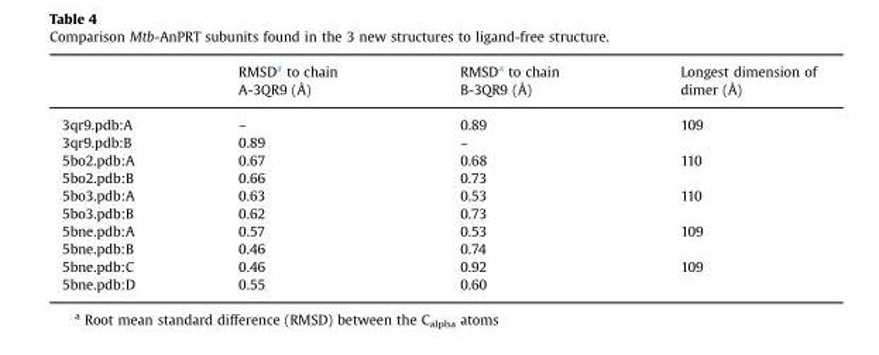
<table><thead><tr><td></td><td>RMSD<sup>a</sup> to chain A-3QR9 (Å)</td><td>RMSD<sup>a</sup> to chain B-3QR9 (Å)</td><td>Longest dimension of dimer (Å)</td></tr></thead><tbody><tr><td>3qr9.pdb:A</td><td>–</td><td>0.89</td><td rowspan="2">109</td></tr><tr><td>3qr9.pdb:B</td><td>0.89</td><td>–</td></tr><tr><td>5bo2.pdb:A</td><td>0.67</td><td>0.68</td><td rowspan="2">110</td></tr><tr><td>5bo2.pdb:B</td><td>0.66</td><td>0.73</td></tr><tr><td>5bo3.pdb:A</td><td>0.63</td><td>0.53</td><td rowspan="2">110</td></tr><tr><td>5bo3.pdb:B</td><td>0.62</td><td>0.73</td></tr><tr><td>5bne.pdb:A</td><td>0.57</td><td>0.53</td><td rowspan="2">109</td></tr><tr><td>5bne.pdb:B</td><td>0.46</td><td>0.74</td></tr><tr><td>5bne.pdb:C</td><td>0.46</td><td>0.92</td><td rowspan="2">109</td></tr><tr><td>5bne.pdb:D</td><td>0.55</td><td>0.60</td></tr></tbody></table>